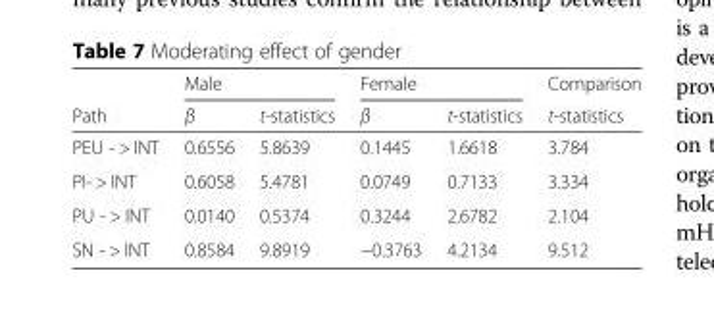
<table><thead><tr><td rowspan="2">Path</td><td colspan="2">Male</td><td colspan="2">Female</td><td rowspan="2">Comparison t-statistics</td></tr><tr><td>β</td><td>t-statistics</td><td>β</td><td>t-statistics</td></tr></thead><tbody><tr><td>PEU - &gt; INT</td><td>0.6556</td><td>5.8639</td><td>0.1445</td><td>1.6618</td><td>3.784</td></tr><tr><td>PI- &gt; INT</td><td>0.6058</td><td>5.4781</td><td>0.0749</td><td>0.7133</td><td>3.334</td></tr><tr><td>PU - &gt; INT</td><td>0.0140</td><td>0.5374</td><td>0.3244</td><td>2.6782</td><td>2.104</td></tr><tr><td>SN - &gt; INT</td><td>0.8584</td><td>9.8919</td><td>−0.3763</td><td>4.2134</td><td>9.512</td></tr></tbody></table>